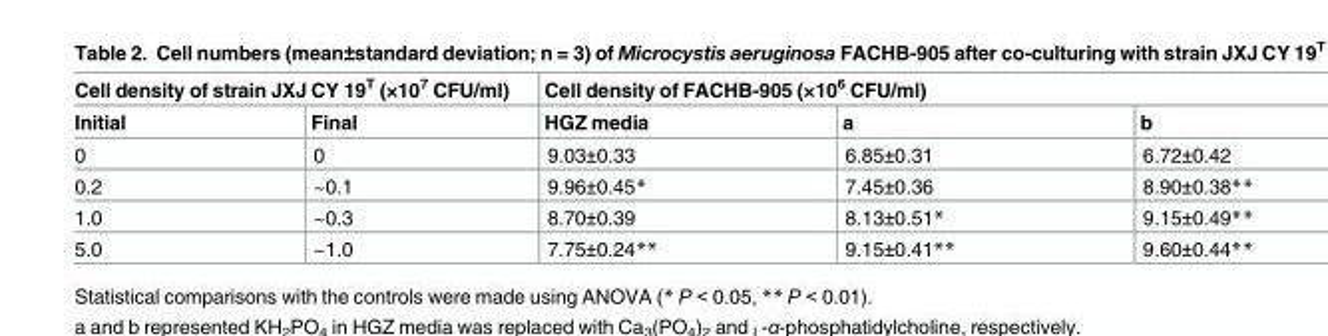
<table><thead><tr><td colspan="2">Cell density of strain JXJ CY 19<sup>T</sup> (×10<sup>7</sup> CFU/ml)</td><td colspan="3">Cell density of FACHB-905 (×10<sup>6</sup> CFU/ml)</td></tr><tr><td>Initial</td><td>Final</td><td>HGZ media</td><td>a</td><td>b</td></tr></thead><tbody><tr><td>0</td><td>0</td><td>9.03±0.33</td><td>6.85±0.31</td><td>6.72±0.42</td></tr><tr><td>0.2</td><td>~0.1</td><td>9.96±0.45*</td><td>7.45±0.36</td><td>8.90±0.38**</td></tr><tr><td>1.0</td><td>~0.3</td><td>8.70±0.39</td><td>8.13±0.51*</td><td>9.15±0.49**</td></tr><tr><td>5.0</td><td>~1.0</td><td>7.75±0.24**</td><td>9.15±0.41**</td><td>9.60±0.44**</td></tr></tbody></table>